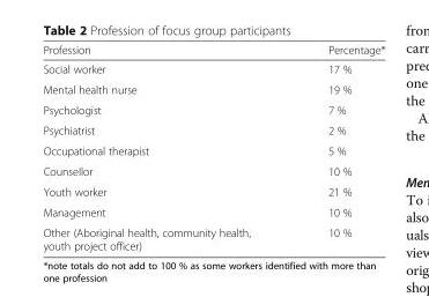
<table><thead><tr><td>Profession</td><td>Percentage*</td></tr></thead><tbody><tr><td>Social worker</td><td>17 %</td></tr><tr><td>Mental health nurse</td><td>19 %</td></tr><tr><td>Psychologist</td><td>7 %</td></tr><tr><td>Psychiatrist</td><td>2 %</td></tr><tr><td>Occupational therapist</td><td>5 %</td></tr><tr><td>Counsellor</td><td>10 %</td></tr><tr><td>Youth worker</td><td>21 %</td></tr><tr><td>Management</td><td>10 %</td></tr><tr><td>Other (Aboriginal health, community health, youth project officer)</td><td>10 %</td></tr></tbody></table>